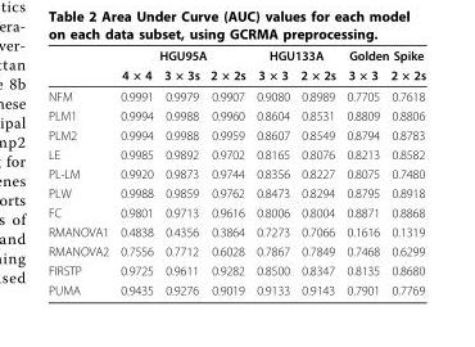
<table><thead><tr><td rowspan="2"></td><td colspan="3">HGU95A</td><td colspan="2">HGU133A</td><td colspan="2">Golden Spike</td></tr><tr><td>4 × 4</td><td>3 × 3s</td><td>2 × 2s</td><td>3 × 3</td><td>2 × 2s</td><td>3 × 3</td><td>2 × 2s</td></tr></thead><tbody><tr><td>NFM</td><td>0.9991</td><td>0.9979</td><td>0.9907</td><td>0.9080</td><td>0.8989</td><td>0.7705</td><td>0.7618</td></tr><tr><td>PLM1</td><td>0.9994</td><td>0.9988</td><td>0.9960</td><td>0.8604</td><td>0.8531</td><td>0.8809</td><td>0.8806</td></tr><tr><td>PLM2</td><td>0.9994</td><td>0.9988</td><td>0.9959</td><td>0.8607</td><td>0.8549</td><td>0.8794</td><td>0.8783</td></tr><tr><td>LE</td><td>0.9985</td><td>0.9892</td><td>0.9702</td><td>0.8165</td><td>0.8076</td><td>0.8213</td><td>0.8582</td></tr><tr><td>PL-LM</td><td>0.9920</td><td>0.9873</td><td>0.9744</td><td>0.8356</td><td>0.8227</td><td>0.8075</td><td>0.7480</td></tr><tr><td>PLW</td><td>0.9988</td><td>0.9859</td><td>0.9762</td><td>0.8473</td><td>0.8294</td><td>0.8795</td><td>0.8918</td></tr><tr><td>FC</td><td>0.9801</td><td>0.9713</td><td>0.9616</td><td>0.8006</td><td>0.8004</td><td>0.8871</td><td>0.8868</td></tr><tr><td>RMANOVA1</td><td>0.4838</td><td>0.4356</td><td>0.3864</td><td>0.7273</td><td>0.7066</td><td>0.1616</td><td>0.1319</td></tr><tr><td>RMANOVA2</td><td>0.7556</td><td>0.7712</td><td>0.6028</td><td>0.7867</td><td>0.7849</td><td>0.7468</td><td>0.6299</td></tr><tr><td>FIRSTP</td><td>0.9725</td><td>0.9611</td><td>0.9282</td><td>0.8500</td><td>0.8347</td><td>0.8135</td><td>0.8680</td></tr><tr><td>PUMA</td><td>0.9435</td><td>0.9276</td><td>0.9019</td><td>0.9133</td><td>0.9143</td><td>0.7901</td><td>0.7769</td></tr></tbody></table>